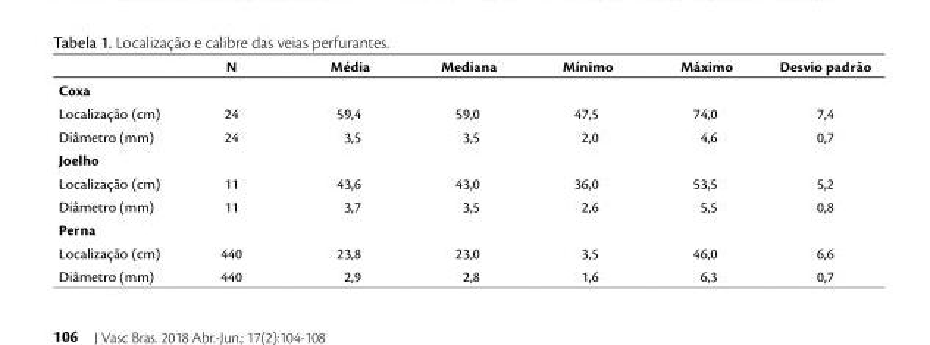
<table><thead><tr><td></td><td>N</td><td>Média</td><td>Mediana</td><td>Mínimo</td><td>Máximo</td><td>Desvio padrão</td></tr></thead><tbody><tr><td colspan="7">Coxa</td></tr><tr><td>Localização (cm)</td><td>24</td><td>59,4</td><td>59,0</td><td>47,5</td><td>74,0</td><td>7,4</td></tr><tr><td>Diâmetro (mm)</td><td>24</td><td>3,5</td><td>3,5</td><td>2,0</td><td>4,6</td><td>0,7</td></tr><tr><td colspan="7">Joelho</td></tr><tr><td>Localização (cm)</td><td>11</td><td>43,6</td><td>43,0</td><td>36,0</td><td>53,5</td><td>5,2</td></tr><tr><td>Diâmetro (mm)</td><td>11</td><td>3,7</td><td>3,5</td><td>2,6</td><td>5,5</td><td>0,8</td></tr><tr><td colspan="7">Perna</td></tr><tr><td>Localização (cm)</td><td>440</td><td>23,8</td><td>23,0</td><td>3,5</td><td>46,0</td><td>6,6</td></tr><tr><td>Diâmetro (mm)</td><td>440</td><td>2,9</td><td>2,8</td><td>1,6</td><td>6,3</td><td>0,7</td></tr></tbody></table>